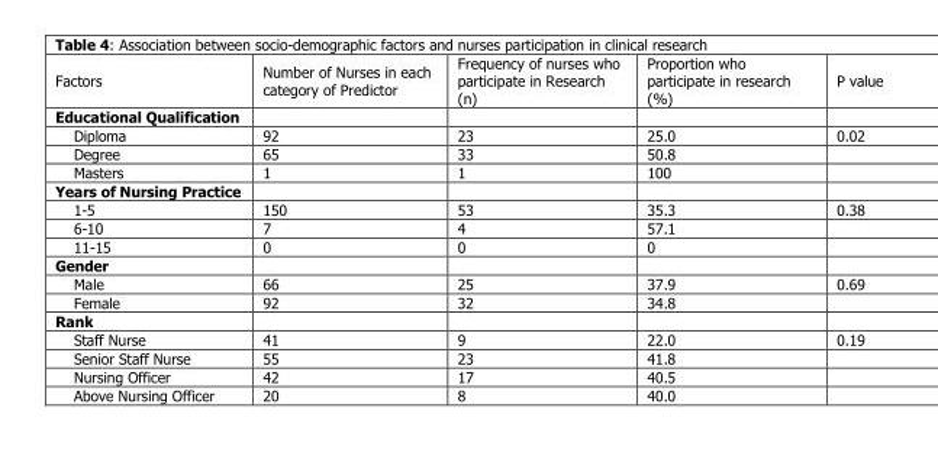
<table><thead><tr><td>Factors</td><td>Number of Nurses in each category of Predictor</td><td>Frequency of nurses who participate in Research (n)</td><td>Proportion who participate in research (%)</td><td>P value</td></tr></thead><tbody><tr><td colspan="5">Educational Qualification</td></tr><tr><td>Diploma</td><td>92</td><td>23</td><td>25.0</td><td>0.02</td></tr><tr><td>Degree</td><td>65</td><td>33</td><td>50.8</td><td></td></tr><tr><td>Masters</td><td>1</td><td>1</td><td>100</td><td></td></tr><tr><td colspan="5">Years of Nursing Practice</td></tr><tr><td>1-5</td><td>150</td><td>53</td><td>35.3</td><td>0.38</td></tr><tr><td>6-10</td><td>7</td><td>4</td><td>57.1</td><td></td></tr><tr><td>11-15</td><td>0</td><td>0</td><td>0</td><td></td></tr><tr><td colspan="5">Gender</td></tr><tr><td>Male</td><td>66</td><td>25</td><td>37.9</td><td>0.69</td></tr><tr><td>Female</td><td>92</td><td>32</td><td>34.8</td><td></td></tr><tr><td colspan="5">Rank</td></tr><tr><td>Staff Nurse</td><td>41</td><td>9</td><td>22.0</td><td>0.19</td></tr><tr><td>Senior Staff Nurse</td><td>55</td><td>23</td><td>41.8</td><td></td></tr><tr><td>Nursing Officer</td><td>42</td><td>17</td><td>40.5</td><td></td></tr><tr><td>Above Nursing Officer</td><td>20</td><td>8</td><td>40.0</td><td></td></tr></tbody></table>